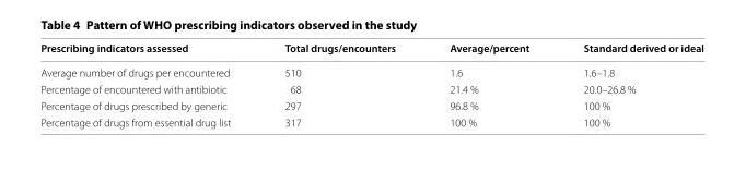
<table><thead><tr><td>Prescribing indicators assessed</td><td>Total drugs/encounters</td><td>Average/percent</td><td>Standard derived or ideal</td></tr></thead><tbody><tr><td>Average number of drugs per encountered</td><td>510</td><td>1.6</td><td>1.6–1.8</td></tr><tr><td>Percentage of encountered with antibiotic</td><td>68</td><td>21.4 %</td><td>20.0–26.8 %</td></tr><tr><td>Percentage of drugs prescribed by generic</td><td>297</td><td>96.8 %</td><td>100 %</td></tr><tr><td>Percentage of drugs from essential drug list</td><td>317</td><td>100 %</td><td>100 %</td></tr></tbody></table>